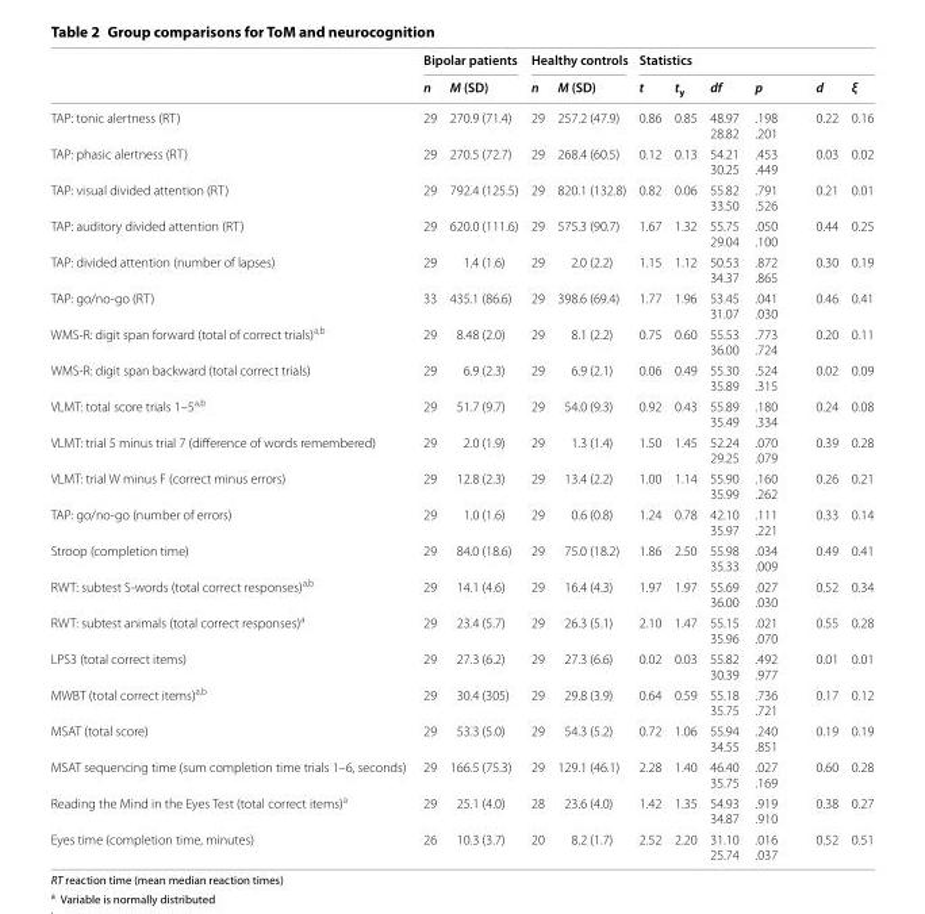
<table><thead><tr><td rowspan="2"></td><td colspan="2">Bipolar patients</td><td colspan="2">Healthy controls</td><td colspan="6">Statistics</td></tr><tr><td>n</td><td>M (SD)</td><td>n</td><td>M (SD)</td><td>t</td><td>t<sub>y</sub></td><td>df</td><td>p</td><td>d</td><td>ξ</td></tr></thead><tbody><tr><td>TAP: tonic alertness (RT)</td><td>29</td><td>270.9 (71.4)</td><td>29</td><td>257.2 (47.9)</td><td>0.86</td><td>0.85</td><td>48.97 28.82</td><td>.198 .201</td><td>0.22</td><td>0.16</td></tr><tr><td>TAP: phasic alertness (RT)</td><td>29</td><td>270.5 (72.7)</td><td>29</td><td>268.4 (60.5)</td><td>0.12</td><td>0.13</td><td>54.21 30.25</td><td>.453 .449</td><td>0.03</td><td>0.02</td></tr><tr><td>TAP: visual divided attention (RT)</td><td>29</td><td>792.4 (125.5)</td><td>29</td><td>820.1 (132.8)</td><td>0.82</td><td>0.06</td><td>55.82 33.50</td><td>.791 .526</td><td>0.21</td><td>0.01</td></tr><tr><td>TAP: auditory divided attention (RT)</td><td>29</td><td>620.0 (111.6)</td><td>29</td><td>575.3 (90.7)</td><td>1.67</td><td>1.32</td><td>55.75 29.04</td><td>.050 .100</td><td>0.44</td><td>0.25</td></tr><tr><td>TAP: divided attention (number of lapses)</td><td>29</td><td>1.4 (1.6)</td><td>29</td><td>2.0 (2.2)</td><td>1.15</td><td>1.12</td><td>50.53 34.37</td><td>.872 .865</td><td>0.30</td><td>0.19</td></tr><tr><td>TAP: go/no-go (RT)</td><td>33</td><td>435.1 (86.6)</td><td>29</td><td>398.6 (69.4)</td><td>1.77</td><td>1.96</td><td>53.45 31.07</td><td>.041 .030</td><td>0.46</td><td>0.41</td></tr><tr><td>WMS-R: digit span forward (total of correct trials)<sup>a,b</sup></td><td>29</td><td>8.48 (2.0)</td><td>29</td><td>8.1 (2.2)</td><td>0.75</td><td>0.60</td><td>55.53 36.00</td><td>.773 .724</td><td>0.20</td><td>0.11</td></tr><tr><td>WMS-R: digit span backward (total correct trials)</td><td>29</td><td>6.9 (2.3)</td><td>29</td><td>6.9 (2.1)</td><td>0.06</td><td>0.49</td><td>55.30 35.89</td><td>.524 .315</td><td>0.02</td><td>0.09</td></tr><tr><td>VLMT: total score trials 1–5<sup>a,b</sup></td><td>29</td><td>51.7 (9.7)</td><td>29</td><td>54.0 (9.3)</td><td>0.92</td><td>0.43</td><td>55.89 35.49</td><td>.180 .334</td><td>0.24</td><td>0.08</td></tr><tr><td>VLMT: trial 5 minus trial 7 (difference of words remembered)</td><td>29</td><td>2.0 (1.9)</td><td>29</td><td>1.3 (1.4)</td><td>1.50</td><td>1.45</td><td>52.24 29.25</td><td>.070 .079</td><td>0.39</td><td>0.28</td></tr><tr><td>VLMT: trial W minus F (correct minus errors)</td><td>29</td><td>12.8 (2.3)</td><td>29</td><td>13.4 (2.2)</td><td>1.00</td><td>1.14</td><td>55.90 35.99</td><td>.160 .262</td><td>0.26</td><td>0.21</td></tr><tr><td>TAP: go/no-go (number of errors)</td><td>29</td><td>1.0 (1.6)</td><td>29</td><td>0.6 (0.8)</td><td>1.24</td><td>0.78</td><td>42.10 35.97</td><td>.111 .221</td><td>0.33</td><td>0.14</td></tr><tr><td>Stroop (completion time)</td><td>29</td><td>84.0 (18.6)</td><td>29</td><td>75.0 (18.2)</td><td>1.86</td><td>2.50</td><td>55.98 35.33</td><td>.034 .009</td><td>0.49</td><td>0.41</td></tr><tr><td>RWT: subtest S-words (total correct responses)<sup>a,b</sup></td><td>29</td><td>14.1 (4.6)</td><td>29</td><td>16.4 (4.3)</td><td>1.97</td><td>1.97</td><td>55.69 36.00</td><td>.027 .030</td><td>0.52</td><td>0.34</td></tr><tr><td>RWT: subtest animals (total correct responses)<sup>a</sup></td><td>29</td><td>23.4 (5.7)</td><td>29</td><td>26.3 (5.1)</td><td>2.10</td><td>1.47</td><td>55.15 35.96</td><td>.021 .070</td><td>0.55</td><td>0.28</td></tr><tr><td>LPS3 (total correct items)</td><td>29</td><td>27.3 (6.2)</td><td>29</td><td>27.3 (6.6)</td><td>0.02</td><td>0.03</td><td>55.82 30.39</td><td>.492 .977</td><td>0.01</td><td>0.01</td></tr><tr><td>MWBT (total correct items)<sup>a,b</sup></td><td>29</td><td>30.4 (305)</td><td>29</td><td>29.8 (3.9)</td><td>0.64</td><td>0.59</td><td>55.18 35.75</td><td>.736 .721</td><td>0.17</td><td>0.12</td></tr><tr><td>MSAT (total score)</td><td>29</td><td>53.3 (5.0)</td><td>29</td><td>54.3 (5.2)</td><td>0.72</td><td>1.06</td><td>55.94 34.55</td><td>.240 .851</td><td>0.19</td><td>0.19</td></tr><tr><td>MSAT sequencing time (sum completion time trials 1–6, seconds)</td><td>29</td><td>166.5 (75.3)</td><td>29</td><td>129.1 (46.1)</td><td>2.28</td><td>1.40</td><td>46.40 35.75</td><td>.027 .169</td><td>0.60</td><td>0.28</td></tr><tr><td>Reading the Mind in the Eyes Test (total correct items)<sup>a</sup></td><td>29</td><td>25.1 (4.0)</td><td>28</td><td>23.6 (4.0)</td><td>1.42</td><td>1.35</td><td>54.93 34.87</td><td>.919 .910</td><td>0.38</td><td>0.27</td></tr><tr><td>Eyes time (completion time, minutes)</td><td>26</td><td>10.3 (3.7)</td><td>20</td><td>8.2 (1.7)</td><td>2.52</td><td>2.20</td><td>31.10 25.74</td><td>.016 .037</td><td>0.52</td><td>0.51</td></tr></tbody></table>